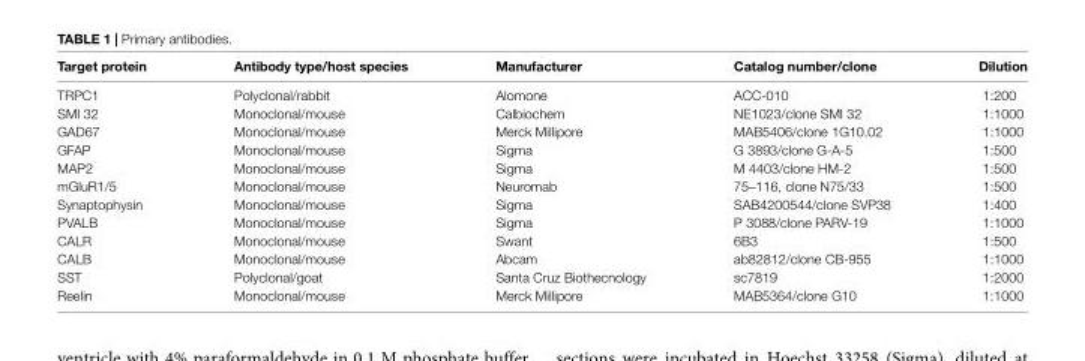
<table><thead><tr><td>Target protein</td><td>Antibody type/host species</td><td>Manufacturer</td><td>Catalog number/clone</td><td>Dilution</td></tr></thead><tbody><tr><td>TRPC1</td><td>Polyclonal/rabbit</td><td>Alomone</td><td>ACC-010</td><td>1:200</td></tr><tr><td>SMI 32</td><td>Monoclonal/mouse</td><td>Calbiochem</td><td>NE1023/clone SMI 32</td><td>1:1000</td></tr><tr><td>GAD67</td><td>Monoclonal/mouse</td><td>Merck Millipore</td><td>MAB5406/clone 1G10.02</td><td>1:1000</td></tr><tr><td>GFAP</td><td>Monoclonal/mouse</td><td>Sigma</td><td>G 3893/clone G-A-5</td><td>1:500</td></tr><tr><td>MAP2</td><td>Monoclonal/mouse</td><td>Sigma</td><td>M 4403/clone HM-2</td><td>1:500</td></tr><tr><td>mGluR1/5</td><td>Monoclonal/mouse</td><td>Neuromab</td><td>75–116, clone N75/33</td><td>1:500</td></tr><tr><td>Synaptophysin</td><td>Monoclonal/mouse</td><td>Sigma</td><td>SAB4200544/clone SVP38</td><td>1:400</td></tr><tr><td>PVALB</td><td>Monoclonal/mouse</td><td>Sigma</td><td>P 3088/clone PARV-19</td><td>1:1000</td></tr><tr><td>CALR</td><td>Monoclonal/mouse</td><td>Swant</td><td>6B3</td><td>1:500</td></tr><tr><td>CALB</td><td>Monoclonal/mouse</td><td>Abcam</td><td>ab82812/clone CB-955</td><td>1:1000</td></tr><tr><td>SST</td><td>Polyclonal/goat</td><td>Santa Cruz Biothecnology</td><td>sc7819</td><td>1:2000</td></tr><tr><td>Reelin</td><td>Monoclonal/mouse</td><td>Merck Millipore</td><td>MAB5364/clone G10</td><td>1:1000</td></tr></tbody></table>